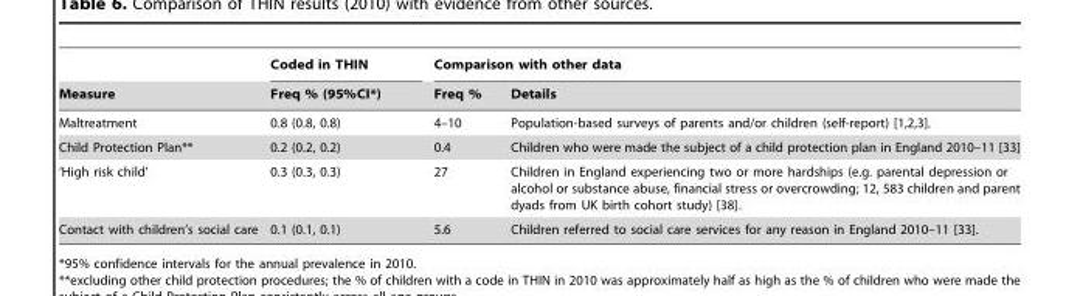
<table><thead><tr><td rowspan="2">Measure</td><td rowspan="2">Coded in THIN Freq % (95%CI*)</td><td colspan="2">Comparison with other data</td></tr><tr><td>Freq %</td><td>Details</td></tr></thead><tbody><tr><td>Maltreatment</td><td>0.8 (0.8, 0.8)</td><td>4–10</td><td>Population-based surveys of parents and/or children (self-report) [1,2,3].</td></tr><tr><td>Child Protection Plan**</td><td>0.2 (0.2, 0.2)</td><td>0.4</td><td>Children who were made the subject of a child protection plan in England 2010–11 [33]</td></tr><tr><td>‘High risk child’</td><td>0.3 (0.3, 0.3)</td><td>27</td><td>Children in England experiencing two or more hardships (e.g. parental depression or alcohol or substance abuse, financial stress or overcrowding; 12, 583 children and parent dyads from UK birth cohort study) [38].</td></tr><tr><td>Contact with children’s social care</td><td>0.1 (0.1, 0.1)</td><td>5.6</td><td>Children referred to social care services for any reason in England 2010–11 [33].</td></tr></tbody></table>